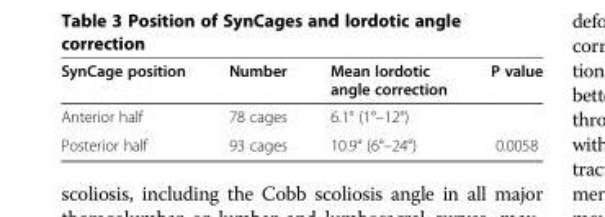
<table><thead><tr><td>SynCage position</td><td>Number</td><td>Mean lordotic angle correction</td><td>P value</td></tr></thead><tbody><tr><td>Anterior half</td><td>78 cages</td><td>6.1° (1°–12°)</td><td></td></tr><tr><td>Posterior half</td><td>93 cages</td><td>10.9° (6°–24°)</td><td>0.0058</td></tr></tbody></table>